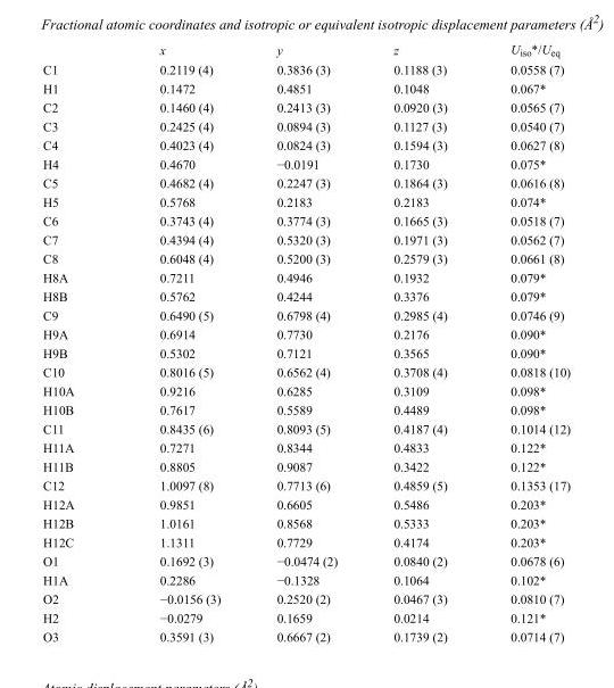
<table><thead><tr><td></td><td>x</td><td>y</td><td>z</td><td>U<sub>iso</sub>*/U<sub>eq</sub></td></tr></thead><tbody><tr><td>C1</td><td>0.2119 (4)</td><td>0.3836 (3)</td><td>0.1188 (3)</td><td>0.0558 (7)</td></tr><tr><td>H1</td><td>0.1472</td><td>0.4851</td><td>0.1048</td><td>0.067*</td></tr><tr><td>C2</td><td>0.1460 (4)</td><td>0.2413 (3)</td><td>0.0920 (3)</td><td>0.0565 (7)</td></tr><tr><td>C3</td><td>0.2425 (4)</td><td>0.0894 (3)</td><td>0.1127 (3)</td><td>0.0540 (7)</td></tr><tr><td>C4</td><td>0.4023 (4)</td><td>0.0824 (3)</td><td>0.1594 (3)</td><td>0.0627 (8)</td></tr><tr><td>H4</td><td>0.4670</td><td>−0.0191</td><td>0.1730</td><td>0.075*</td></tr><tr><td>C5</td><td>0.4682 (4)</td><td>0.2247 (3)</td><td>0.1864 (3)</td><td>0.0616 (8)</td></tr><tr><td>H5</td><td>0.5768</td><td>0.2183</td><td>0.2183</td><td>0.074*</td></tr><tr><td>C6</td><td>0.3743 (4)</td><td>0.3774 (3)</td><td>0.1665 (3)</td><td>0.0518 (7)</td></tr><tr><td>C7</td><td>0.4394 (4)</td><td>0.5320 (3)</td><td>0.1971 (3)</td><td>0.0562 (7)</td></tr><tr><td>C8</td><td>0.6048 (4)</td><td>0.5200 (3)</td><td>0.2579 (3)</td><td>0.0661 (8)</td></tr><tr><td>H8A</td><td>0.7211</td><td>0.4946</td><td>0.1932</td><td>0.079*</td></tr><tr><td>H8B</td><td>0.5762</td><td>0.4244</td><td>0.3376</td><td>0.079*</td></tr><tr><td>C9</td><td>0.6490 (5)</td><td>0.6798 (4)</td><td>0.2985 (4)</td><td>0.0746 (9)</td></tr><tr><td>H9A</td><td>0.6914</td><td>0.7730</td><td>0.2176</td><td>0.090*</td></tr><tr><td>H9B</td><td>0.5302</td><td>0.7121</td><td>0.3565</td><td>0.090*</td></tr><tr><td>C10</td><td>0.8016 (5)</td><td>0.6562 (4)</td><td>0.3708 (4)</td><td>0.0818 (10)</td></tr><tr><td>H10A</td><td>0.9216</td><td>0.6285</td><td>0.3109</td><td>0.098*</td></tr><tr><td>H10B</td><td>0.7617</td><td>0.5589</td><td>0.4489</td><td>0.098*</td></tr><tr><td>C11</td><td>0.8435 (6)</td><td>0.8093 (5)</td><td>0.4187 (4)</td><td>0.1014 (12)</td></tr><tr><td>H11A</td><td>0.7271</td><td>0.8344</td><td>0.4833</td><td>0.122*</td></tr><tr><td>H11B</td><td>0.8805</td><td>0.9087</td><td>0.3422</td><td>0.122*</td></tr><tr><td>C12</td><td>1.0097 (8)</td><td>0.7713 (6)</td><td>0.4859 (5)</td><td>0.1353 (17)</td></tr><tr><td>H12A</td><td>0.9851</td><td>0.6605</td><td>0.5486</td><td>0.203*</td></tr><tr><td>H12B</td><td>1.0161</td><td>0.8568</td><td>0.5333</td><td>0.203*</td></tr><tr><td>H12C</td><td>1.1311</td><td>0.7729</td><td>0.4174</td><td>0.203*</td></tr><tr><td>O1</td><td>0.1692 (3)</td><td>−0.0474 (2)</td><td>0.0840 (2)</td><td>0.0678 (6)</td></tr><tr><td>H1A</td><td>0.2286</td><td>−0.1328</td><td>0.1064</td><td>0.102*</td></tr><tr><td>O2</td><td>−0.0156 (3)</td><td>0.2520 (2)</td><td>0.0467 (3)</td><td>0.0810 (7)</td></tr><tr><td>H2</td><td>−0.0279</td><td>0.1659</td><td>0.0214</td><td>0.121*</td></tr><tr><td>O3</td><td>0.3591 (3)</td><td>0.6667 (2)</td><td>0.1739 (2)</td><td>0.0714 (7)</td></tr></tbody></table>